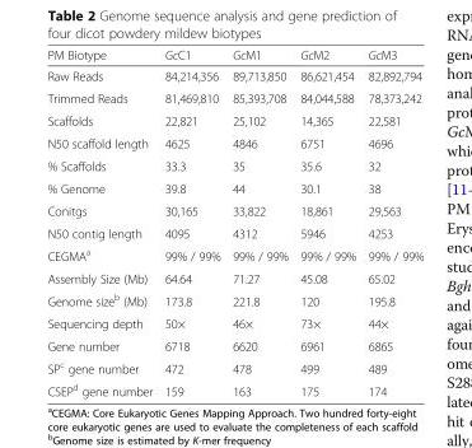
<table><thead><tr><td>PM Biotype</td><td>GcC1</td><td>GcM1</td><td>GcM2</td><td>GcM3</td></tr></thead><tbody><tr><td>Raw Reads</td><td>84,214,356</td><td>89,713,850</td><td>86,621,454</td><td>82,892,794</td></tr><tr><td>Trimmed Reads</td><td>81,469,810</td><td>85,393,708</td><td>84,044,588</td><td>78,373,242</td></tr><tr><td>Scaffolds</td><td>22,821</td><td>25,102</td><td>14,365</td><td>22,581</td></tr><tr><td>N50 scaffold length</td><td>4625</td><td>4846</td><td>6751</td><td>4696</td></tr><tr><td>% Scaffolds</td><td>33.3</td><td>35</td><td>35.6</td><td>32</td></tr><tr><td>% Genome</td><td>39.8</td><td>44</td><td>30.1</td><td>38</td></tr><tr><td>Conitgs</td><td>30,165</td><td>33,822</td><td>18,861</td><td>29,563</td></tr><tr><td>N50 contig length</td><td>4095</td><td>4312</td><td>5946</td><td>4253</td></tr><tr><td>CEGMA<sup>a</sup></td><td>99% / 99%</td><td>99% / 99%</td><td>99% / 99%</td><td>99% / 99%</td></tr><tr><td>Assembly Size (Mb)</td><td>64.64</td><td>71.27</td><td>45.08</td><td>65.02</td></tr><tr><td>Genome size<sup>b</sup> (Mb)</td><td>173.8</td><td>221.8</td><td>120</td><td>195.8</td></tr><tr><td>Sequencing depth</td><td>50×</td><td>46×</td><td>73×</td><td>44×</td></tr><tr><td>Gene number</td><td>6718</td><td>6620</td><td>6961</td><td>6865</td></tr><tr><td>SP<sup>c</sup> gene number</td><td>472</td><td>478</td><td>499</td><td>489</td></tr><tr><td>CSEP<sup>d</sup> gene number</td><td>159</td><td>163</td><td>175</td><td>174</td></tr></tbody></table>